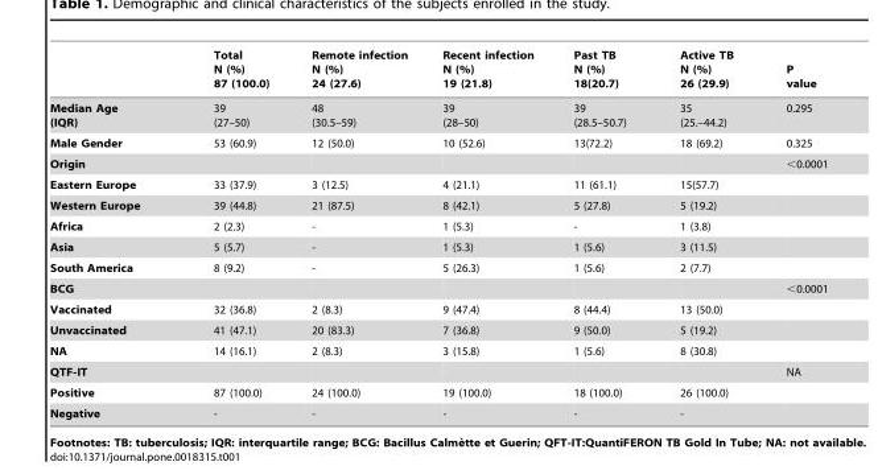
<table><thead><tr><td></td><td>Total N (%) 87 (100.0)</td><td>Remote infection N (%) 24 (27.6)</td><td>Recent infection N (%) 19 (21.8)</td><td>Past TB N (%) 18(20.7)</td><td>Active TB N (%) 26 (29.9)</td><td>P value</td></tr></thead><tbody><tr><td>Median Age (IQR)</td><td>39 (27–50)</td><td>48 (30.5–59)</td><td>39 (28–50)</td><td>39 (28.5–50.7)</td><td>35 (25.–44.2)</td><td>0.295</td></tr><tr><td>Male Gender</td><td>53 (60.9)</td><td>12 (50.0)</td><td>10 (52.6)</td><td>13(72.2)</td><td>18 (69.2)</td><td>0.325</td></tr><tr><td>Origin</td><td></td><td></td><td></td><td></td><td></td><td>&lt;0.0001</td></tr><tr><td>Eastern Europe</td><td>33 (37.9)</td><td>3 (12.5)</td><td>4 (21.1)</td><td>11 (61.1)</td><td>15(57.7)</td><td></td></tr><tr><td>Western Europe</td><td>39 (44.8)</td><td>21 (87.5)</td><td>8 (42.1)</td><td>5 (27.8)</td><td>5 (19.2)</td><td></td></tr><tr><td>Africa</td><td>2 (2.3)</td><td>-</td><td>1 (5.3)</td><td>-</td><td>1 (3.8)</td><td></td></tr><tr><td>Asia</td><td>5 (5.7)</td><td>-</td><td>1 (5.3)</td><td>1 (5.6)</td><td>3 (11.5)</td><td></td></tr><tr><td>South America</td><td>8 (9.2)</td><td>-</td><td>5 (26.3)</td><td>1 (5.6)</td><td>2 (7.7)</td><td></td></tr><tr><td>BCG</td><td></td><td></td><td></td><td></td><td></td><td>&lt;0.0001</td></tr><tr><td>Vaccinated</td><td>32 (36.8)</td><td>2 (8.3)</td><td>9 (47.4)</td><td>8 (44.4)</td><td>13 (50.0)</td><td></td></tr><tr><td>Unvaccinated</td><td>41 (47.1)</td><td>20 (83.3)</td><td>7 (36.8)</td><td>9 (50.0)</td><td>5 (19.2)</td><td></td></tr><tr><td>NA</td><td>14 (16.1)</td><td>2 (8.3)</td><td>3 (15.8)</td><td>1 (5.6)</td><td>8 (30.8)</td><td></td></tr><tr><td>QTF-IT</td><td></td><td></td><td></td><td></td><td></td><td>NA</td></tr><tr><td>Positive</td><td>87 (100.0)</td><td>24 (100.0)</td><td>19 (100.0)</td><td>18 (100.0)</td><td>26 (100.0)</td><td></td></tr><tr><td>Negative</td><td>-</td><td>-</td><td>-</td><td>-</td><td>-</td><td></td></tr></tbody></table>